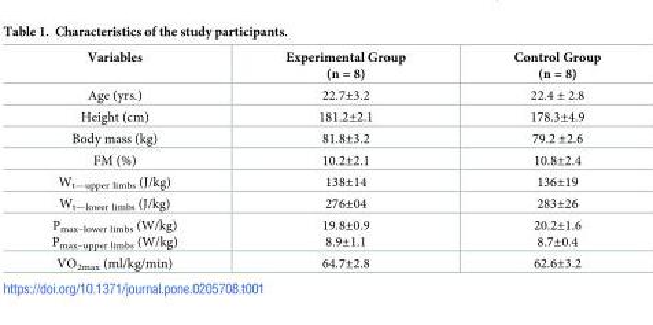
<table><thead><tr><td>Variables</td><td>Experimental Group (n = 8)</td><td>Control Group (n = 8)</td></tr></thead><tbody><tr><td>Age (yrs.)</td><td>22.7±3.2</td><td>22.4 ± 2.8</td></tr><tr><td>Height (cm)</td><td>181.2±2.1</td><td>178.3±4.9</td></tr><tr><td>Body mass (kg)</td><td>81.8±3.2</td><td>79.2 ±2.6</td></tr><tr><td>FM (%)</td><td>10.2±2.1</td><td>10.8±2.4</td></tr><tr><td>W<sub>t—upper limbs</sub> (J/kg)</td><td>138±14</td><td>136±19</td></tr><tr><td>W<sub>t—lower limbs</sub> (J/kg)</td><td>276±04</td><td>283±26</td></tr><tr><td>P<sub>max–lower limbs</sub> (W/kg) P<sub>max–upper limbs</sub> (W/kg)</td><td>19.8±0.9 8.9±1.1</td><td>20.2±1.6 8.7±0.4</td></tr><tr><td>VO<sub>2max</sub> (ml/kg/min)</td><td>64.7±2.8</td><td>62.6±3.2</td></tr></tbody></table>